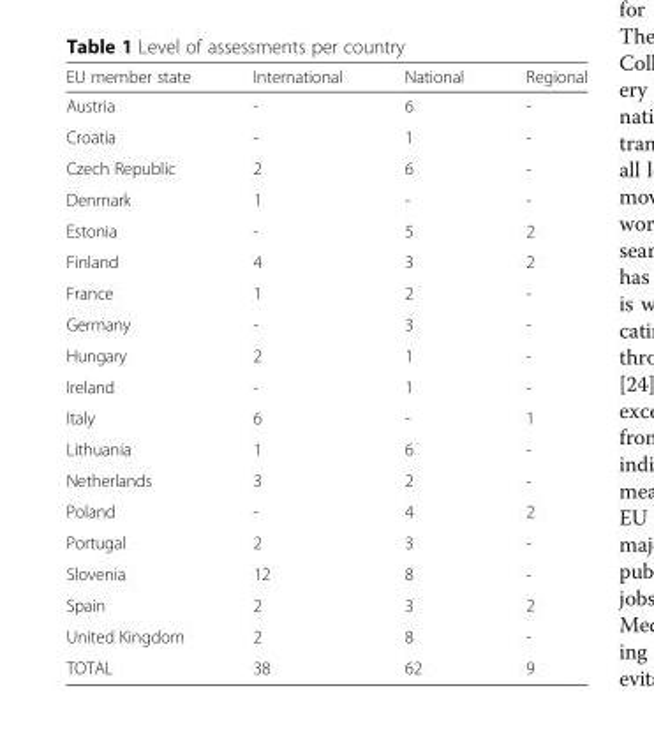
<table><thead><tr><td>EU member state</td><td>International</td><td>National</td><td>Regional</td></tr></thead><tbody><tr><td>Austria</td><td>-</td><td>6</td><td>-</td></tr><tr><td>Croatia</td><td>-</td><td>1</td><td>-</td></tr><tr><td>Czech Republic</td><td>2</td><td>6</td><td>-</td></tr><tr><td>Denmark</td><td>1</td><td>-</td><td>-</td></tr><tr><td>Estonia</td><td>-</td><td>5</td><td>2</td></tr><tr><td>Finland</td><td>4</td><td>3</td><td>2</td></tr><tr><td>France</td><td>1</td><td>2</td><td>-</td></tr><tr><td>Germany</td><td>-</td><td>3</td><td>-</td></tr><tr><td>Hungary</td><td>2</td><td>1</td><td>-</td></tr><tr><td>Ireland</td><td>-</td><td>1</td><td>-</td></tr><tr><td>Italy</td><td>6</td><td>-</td><td>1</td></tr><tr><td>Lithuania</td><td>1</td><td>6</td><td>-</td></tr><tr><td>Netherlands</td><td>3</td><td>2</td><td>-</td></tr><tr><td>Poland</td><td>-</td><td>4</td><td>2</td></tr><tr><td>Portugal</td><td>2</td><td>3</td><td>-</td></tr><tr><td>Slovenia</td><td>12</td><td>8</td><td>-</td></tr><tr><td>Spain</td><td>2</td><td>3</td><td>2</td></tr><tr><td>United Kingdom</td><td>2</td><td>8</td><td>-</td></tr><tr><td>TOTAL</td><td>38</td><td>62</td><td>9</td></tr></tbody></table>